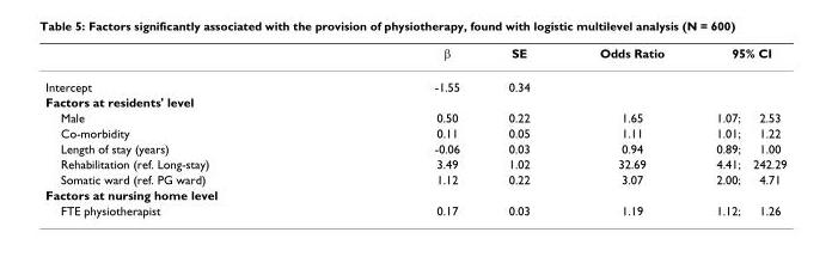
<table><thead><tr><td rowspan="2">Intercept</td><td rowspan="2">β -1.55</td><td rowspan="2">SE 0.34</td><td rowspan="2">Odds Ratio</td><td colspan="2">95% CI</td></tr><tr><td></td><td></td></tr></thead><tbody><tr><td colspan="6">Factors at residents&#x27; level</td></tr><tr><td>Male</td><td>0.50</td><td>0.22</td><td>1.65</td><td>1.07;</td><td>2.53</td></tr><tr><td>Co-morbidity</td><td>0.11</td><td>0.05</td><td>1.11</td><td>1.01;</td><td>1.22</td></tr><tr><td>Length of stay (years)</td><td>-0.06</td><td>0.03</td><td>0.94</td><td>0.89;</td><td>1.00</td></tr><tr><td>Rehabilitation (ref. Long-stay)</td><td>3.49</td><td>1.02</td><td>32.69</td><td>4.41;</td><td>242.29</td></tr><tr><td>Somatic ward (ref. PG ward)</td><td>1.12</td><td>0.22</td><td>3.07</td><td>2.00;</td><td>4.71</td></tr><tr><td colspan="6">Factors at nursing home level</td></tr><tr><td>FTE physiotherapist</td><td>0.17</td><td>0.03</td><td>1.19</td><td>1.12;</td><td>1.26</td></tr></tbody></table>